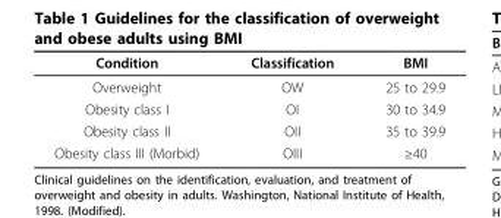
<table><thead><tr><td>Condition</td><td>Classification</td><td>BMI</td></tr></thead><tbody><tr><td>Overweight</td><td>OW</td><td>25 to 29.9</td></tr><tr><td>Obesity class I</td><td>OI</td><td>30 to 34.9</td></tr><tr><td>Obesity class II</td><td>OII</td><td>35 to 39.9</td></tr><tr><td>Obesity class III (Morbid)</td><td>OIII</td><td>≥40</td></tr></tbody></table>